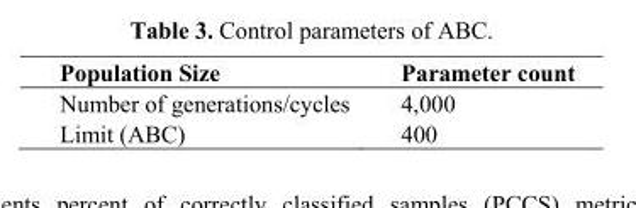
<table><thead><tr><td>Population Size</td><td>Parameter count</td></tr></thead><tbody><tr><td>Number of generations/cycles</td><td>4,000</td></tr><tr><td>Limit (ABC)</td><td>400</td></tr></tbody></table>